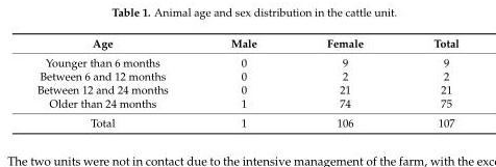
<table><thead><tr><td>Age</td><td>Male</td><td>Female</td><td>Total</td></tr></thead><tbody><tr><td>Younger than 6 months</td><td>0</td><td>9</td><td>9</td></tr><tr><td>Between 6 and 12 months</td><td>0</td><td>2</td><td>2</td></tr><tr><td>Between 12 and 24 months</td><td>0</td><td>21</td><td>21</td></tr><tr><td>Older than 24 months</td><td>1</td><td>74</td><td>75</td></tr><tr><td>Total</td><td>1</td><td>106</td><td>107</td></tr></tbody></table>